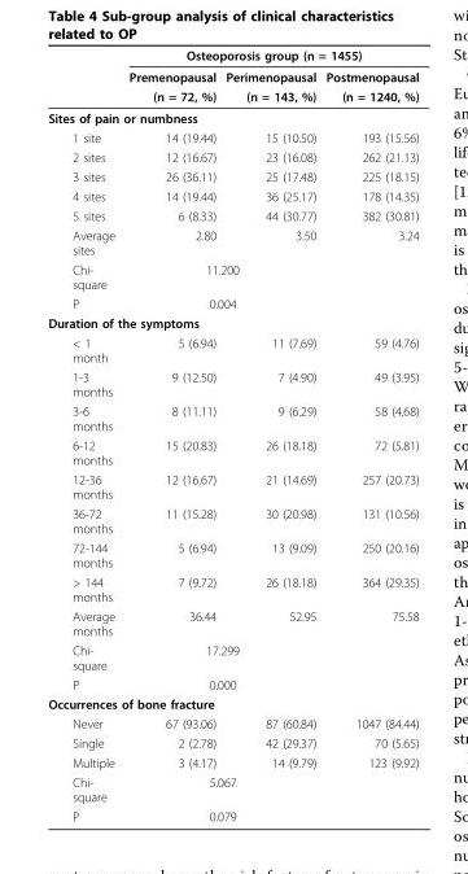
<table><thead><tr><td rowspan="3"></td><td colspan="3">Osteoporosis group (n = 1455)</td></tr><tr><td rowspan="2">Premenopausal (n = 72, %)</td><td rowspan="2">Perimenopausal (n = 143, %)</td><td rowspan="2">Postmenopausal (n = 1240, %)</td></tr><tr></tr></thead><tbody><tr><td colspan="4">Sites of pain or numbness</td></tr><tr><td>1 site</td><td>14 (19.44)</td><td>15 (10.50)</td><td>193 (15.56)</td></tr><tr><td>2 sites</td><td>12 (16.67)</td><td>23 (16.08)</td><td>262 (21.13)</td></tr><tr><td>3 sites</td><td>26 (36.11)</td><td>25 (17.48)</td><td>225 (18.15)</td></tr><tr><td>4 sites</td><td>14 (19.44)</td><td>36 (25.17)</td><td>178 (14.35)</td></tr><tr><td>5 sites</td><td>6 (8.33)</td><td>44 (30.77)</td><td>382 (30.81)</td></tr><tr><td>Average sites</td><td>2.80</td><td>3.50</td><td>3.24</td></tr><tr><td>Chi- square</td><td colspan="2">11.200</td><td></td></tr><tr><td>P</td><td colspan="2">0.004</td><td></td></tr><tr><td colspan="4">Duration of the symptoms</td></tr><tr><td>&lt; 1 month</td><td>5 (6.94)</td><td>11 (7.69)</td><td>59 (4.76)</td></tr><tr><td>1-3 months</td><td>9 (12.50)</td><td>7 (4.90)</td><td>49 (3.95)</td></tr><tr><td>3-6 months</td><td>8 (11.11)</td><td>9 (6.29)</td><td>58 (4.68)</td></tr><tr><td>6-12 months</td><td>15 (20.83)</td><td>26 (18.18)</td><td>72 (5.81)</td></tr><tr><td>12-36 months</td><td>12 (16.67)</td><td>21 (14.69)</td><td>257 (20.73)</td></tr><tr><td>36-72 months</td><td>11 (15.28)</td><td>30 (20.98)</td><td>131 (10.56)</td></tr><tr><td>72-144 months</td><td>5 (6.94)</td><td>13 (9.09)</td><td>250 (20.16)</td></tr><tr><td>&gt; 144 months</td><td>7 (9.72)</td><td>26 (18.18)</td><td>364 (29.35)</td></tr><tr><td>Average months</td><td>36.44</td><td>52.95</td><td>75.58</td></tr><tr><td>Chi- square</td><td colspan="2">17.299</td><td></td></tr><tr><td>P</td><td colspan="2">0.000</td><td></td></tr><tr><td colspan="4">Occurrences of bone fracture</td></tr><tr><td>Never</td><td>67 (93.06)</td><td>87 (60.84)</td><td>1047 (84.44)</td></tr><tr><td>Single</td><td>2 (2.78)</td><td>42 (29.37)</td><td>70 (5.65)</td></tr><tr><td>Multiple</td><td>3 (4.17)</td><td>14 (9.79)</td><td>123 (9.92)</td></tr><tr><td>Chi- square</td><td colspan="2">5.067</td><td></td></tr><tr><td>P</td><td colspan="2">0.079</td><td></td></tr></tbody></table>